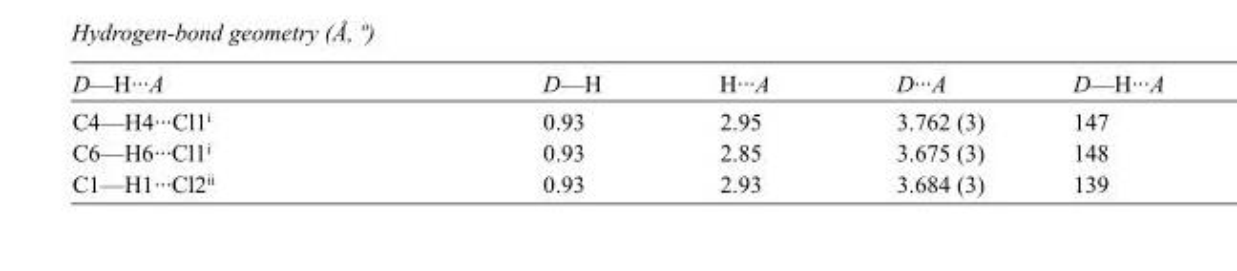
<table><tbody><tr><td>D—H···A</td><td>D—H</td><td>H···A</td><td>D···A</td><td>D—H···A</td></tr><tr><td>C4—H4···Cl1<sup>i</sup></td><td>0.93</td><td>2.95</td><td>3.762 (3)</td><td>147</td></tr><tr><td>C6—H6···Cl1<sup>i</sup></td><td>0.93</td><td>2.85</td><td>3.675 (3)</td><td>148</td></tr><tr><td>C1—H1···Cl2<sup>ii</sup></td><td>0.93</td><td>2.93</td><td>3.684 (3)</td><td>139</td></tr></tbody></table>